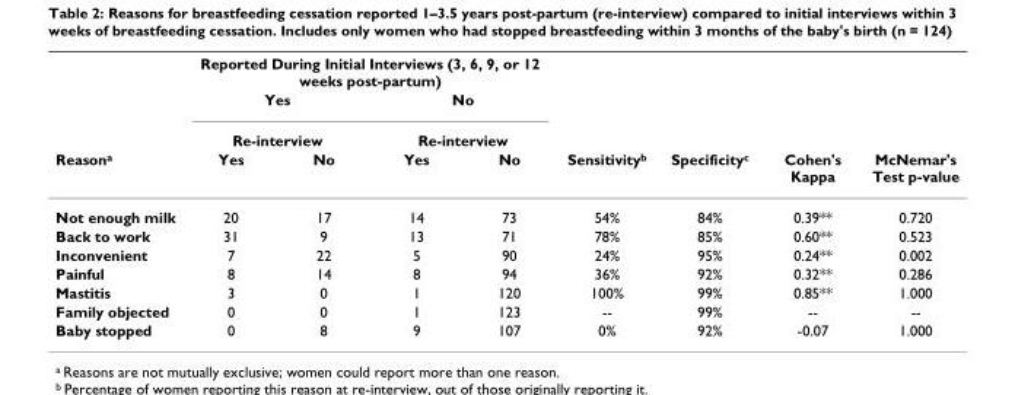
<table><thead><tr><td rowspan="4">Reason<sup>a</sup></td><td colspan="4">Reported During Initial Interviews (3, 6, 9, or 12 weeks post-partum)</td><td rowspan="4">Sensitivity<sup>b</sup></td><td rowspan="4">Specificity<sup>c</sup></td><td rowspan="4">Cohen&#x27;s Kappa</td><td rowspan="4">McNemar&#x27;s Test p-value</td></tr><tr><td rowspan="2" colspan="2">Yes Re-interview</td><td rowspan="2" colspan="2">No Re-interview</td></tr><tr></tr><tr><td>Yes</td><td>No</td><td>Yes</td><td>No</td></tr></thead><tbody><tr><td>Not enough milk</td><td>20</td><td>17</td><td>14</td><td>73</td><td>54%</td><td>84%</td><td>0.39**</td><td>0.720</td></tr><tr><td>Back to work</td><td>31</td><td>9</td><td>13</td><td>71</td><td>78%</td><td>85%</td><td>0.60**</td><td>0.523</td></tr><tr><td>Inconvenient</td><td>7</td><td>22</td><td>5</td><td>90</td><td>24%</td><td>95%</td><td>0.24**</td><td>0.002</td></tr><tr><td>Painful</td><td>8</td><td>14</td><td>8</td><td>94</td><td>36%</td><td>92%</td><td>0.32**</td><td>0.286</td></tr><tr><td>Mastitis</td><td>3</td><td>0</td><td>1</td><td>120</td><td>100%</td><td>99%</td><td>0.85**</td><td>1.000</td></tr><tr><td>Family objected</td><td>0</td><td>0</td><td>1</td><td>123</td><td>--</td><td>99%</td><td>--</td><td>--</td></tr><tr><td>Baby stopped</td><td>0</td><td>8</td><td>9</td><td>107</td><td>0%</td><td>92%</td><td>-0.07</td><td>1.000</td></tr></tbody></table>